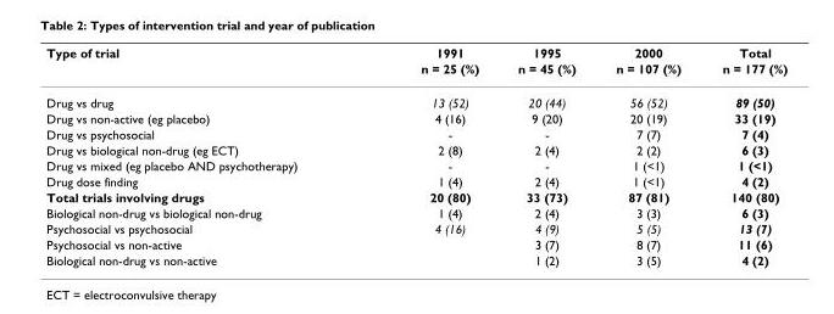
<table><thead><tr><td rowspan="2">Type of trial</td><td rowspan="2">1991 n = 25 (%)</td><td rowspan="2">1995 n = 45 (%)</td><td rowspan="2">2000 n = 107 (%)</td><td rowspan="2">Total n = 177 (%)</td></tr><tr></tr></thead><tbody><tr><td>Drug vs drug</td><td>13 (52)</td><td>20 (44)</td><td>56 (52)</td><td>89 (50)</td></tr><tr><td>Drug vs non-active (eg placebo)</td><td>4 (16)</td><td>9 (20)</td><td>20 (19)</td><td>33 (19)</td></tr><tr><td>Drug vs psychosocial</td><td>-</td><td>-</td><td>7 (7)</td><td>7 (4)</td></tr><tr><td>Drug vs biological non-drug (eg ECT)</td><td>2 (8)</td><td>2 (4)</td><td>2 (2)</td><td>6 (3)</td></tr><tr><td>Drug vs mixed (eg placebo AND psychotherapy)</td><td>-</td><td>-</td><td>1 (&lt;1)</td><td>1 (&lt;1)</td></tr><tr><td>Drug dose finding</td><td>1 (4)</td><td>2 (4)</td><td>1 (&lt;1)</td><td>4 (2)</td></tr><tr><td>Total trials involving drugs</td><td>20 (80)</td><td>33 (73)</td><td>87 (81)</td><td>140 (80)</td></tr><tr><td>Biological non-drug vs biological non-drug</td><td>1 (4)</td><td>2 (4)</td><td>3 (3)</td><td>6 (3)</td></tr><tr><td>Psychosocial vs psychosocial</td><td>4 (16)</td><td>4 (9)</td><td>5 (5)</td><td>13 (7)</td></tr><tr><td>Psychosocial vs non-active</td><td></td><td>3 (7)</td><td>8 (7)</td><td>11 (6)</td></tr><tr><td>Biological non-drug vs non-active</td><td></td><td>1 (2)</td><td>3 (5)</td><td>4 (2)</td></tr></tbody></table>